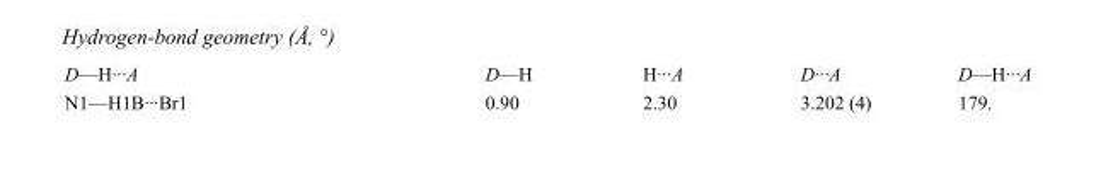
<table><tbody><tr><td>D—H···A</td><td>D—H</td><td>H···A</td><td>D···A</td><td>D—H···A</td></tr><tr><td>N1—H1B···Br1</td><td>0.90</td><td>2.30</td><td>3.202 (4)</td><td>179.</td></tr></tbody></table>